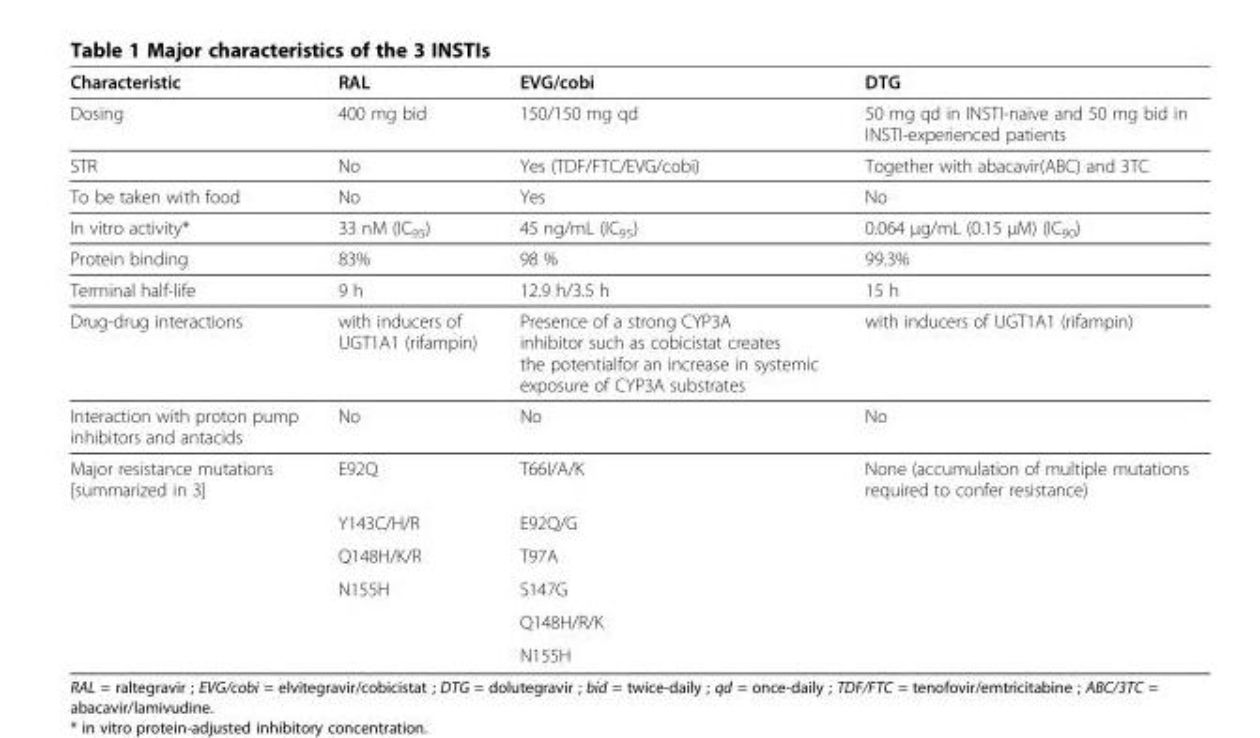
<table><thead><tr><td>Characteristic</td><td>RAL</td><td>EVG/cobi</td><td>DTG</td></tr></thead><tbody><tr><td>Dosing</td><td>400 mg bid</td><td>150/150 mg qd</td><td>50 mg qd in INSTI-naive and 50 mg bid in INSTI-experienced patients</td></tr><tr><td>STR</td><td>No</td><td>Yes (TDF/FTC/EVG/cobi)</td><td>Together with abacavir(ABC) and 3TC</td></tr><tr><td>To be taken with food</td><td>No</td><td>Yes</td><td>No</td></tr><tr><td>In vitro activity*</td><td>33 nM (IC<sub>95</sub>)</td><td>45 ng/mL (IC<sub>95</sub>)</td><td>0.064 μg/mL (0.15 μM) (IC<sub>90</sub>)</td></tr><tr><td>Protein binding</td><td>83%</td><td>98 %</td><td>99.3%</td></tr><tr><td>Terminal half-life</td><td>9 h</td><td>12.9 h/3.5 h</td><td>15 h</td></tr><tr><td>Drug-drug interactions</td><td>with inducers of UGT1A1 (rifampin)</td><td>Presence of a strong CYP3A inhibitor such as cobicistat creates the potentialfor an increase in systemic exposure of CYP3A substrates</td><td>with inducers of UGT1A1 (rifampin)</td></tr><tr><td>Interaction with proton pump inhibitors and antacids</td><td>No</td><td>No</td><td>No</td></tr><tr><td rowspan="6">Major resistance mutations [summarized in 3]</td><td>E92Q</td><td>T66I/A/K</td><td>None (accumulation of multiple mutations required to confer resistance)</td></tr><tr><td>Y143C/H/R</td><td>E92Q/G</td><td></td></tr><tr><td>Q148H/K/R</td><td>T97A</td><td></td></tr><tr><td>N155H</td><td>S147G</td><td></td></tr><tr><td></td><td>Q148H/R/K</td><td></td></tr><tr><td></td><td>N155H</td><td></td></tr></tbody></table>